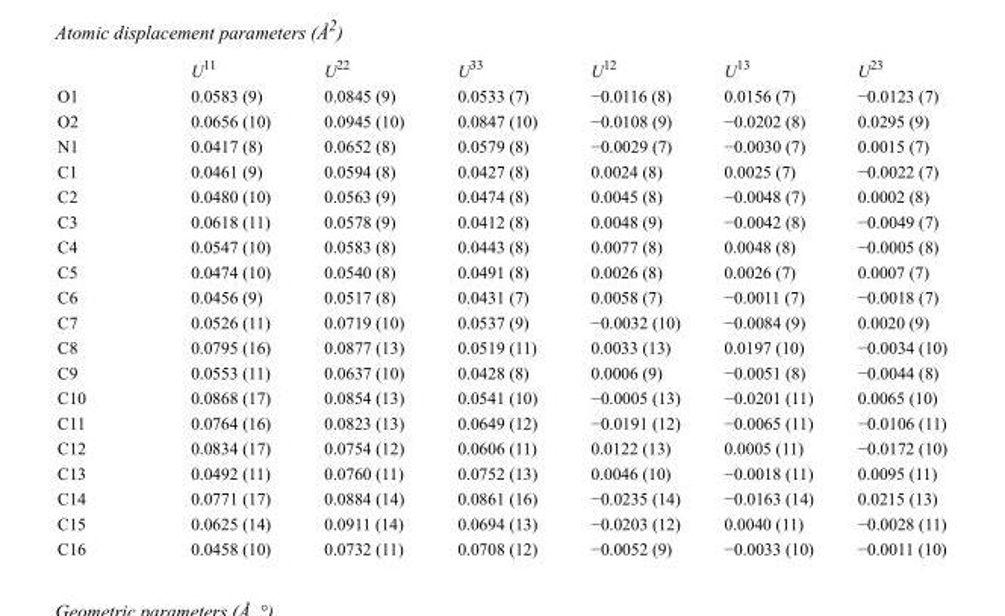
<table><thead><tr><td></td><td>U<sup>11</sup></td><td>U<sup>22</sup></td><td>U<sup>33</sup></td><td>U<sup>12</sup></td><td>U<sup>13</sup></td><td>U<sup>23</sup></td></tr></thead><tbody><tr><td>O1</td><td>0.0583 (9)</td><td>0.0845 (9)</td><td>0.0533 (7)</td><td>−0.0116 (8)</td><td>0.0156 (7)</td><td>−0.0123 (7)</td></tr><tr><td>O2</td><td>0.0656 (10)</td><td>0.0945 (10)</td><td>0.0847 (10)</td><td>−0.0108 (9)</td><td>−0.0202 (8)</td><td>0.0295 (9)</td></tr><tr><td>N1</td><td>0.0417 (8)</td><td>0.0652 (8)</td><td>0.0579 (8)</td><td>−0.0029 (7)</td><td>−0.0030 (7)</td><td>0.0015 (7)</td></tr><tr><td>C1</td><td>0.0461 (9)</td><td>0.0594 (8)</td><td>0.0427 (8)</td><td>0.0024 (8)</td><td>0.0025 (7)</td><td>−0.0022 (7)</td></tr><tr><td>C2</td><td>0.0480 (10)</td><td>0.0563 (9)</td><td>0.0474 (8)</td><td>0.0045 (8)</td><td>−0.0048 (7)</td><td>0.0002 (8)</td></tr><tr><td>C3</td><td>0.0618 (11)</td><td>0.0578 (9)</td><td>0.0412 (8)</td><td>0.0048 (9)</td><td>−0.0042 (8)</td><td>−0.0049 (7)</td></tr><tr><td>C4</td><td>0.0547 (10)</td><td>0.0583 (8)</td><td>0.0443 (8)</td><td>0.0077 (8)</td><td>0.0048 (8)</td><td>−0.0005 (8)</td></tr><tr><td>C5</td><td>0.0474 (10)</td><td>0.0540 (8)</td><td>0.0491 (8)</td><td>0.0026 (8)</td><td>0.0026 (7)</td><td>0.0007 (7)</td></tr><tr><td>C6</td><td>0.0456 (9)</td><td>0.0517 (8)</td><td>0.0431 (7)</td><td>0.0058 (7)</td><td>−0.0011 (7)</td><td>−0.0018 (7)</td></tr><tr><td>C7</td><td>0.0526 (11)</td><td>0.0719 (10)</td><td>0.0537 (9)</td><td>−0.0032 (10)</td><td>−0.0084 (9)</td><td>0.0020 (9)</td></tr><tr><td>C8</td><td>0.0795 (16)</td><td>0.0877 (13)</td><td>0.0519 (11)</td><td>0.0033 (13)</td><td>0.0197 (10)</td><td>−0.0034 (10)</td></tr><tr><td>C9</td><td>0.0553 (11)</td><td>0.0637 (10)</td><td>0.0428 (8)</td><td>0.0006 (9)</td><td>−0.0051 (8)</td><td>−0.0044 (8)</td></tr><tr><td>C10</td><td>0.0868 (17)</td><td>0.0854 (13)</td><td>0.0541 (10)</td><td>−0.0005 (13)</td><td>−0.0201 (11)</td><td>0.0065 (10)</td></tr><tr><td>C11</td><td>0.0764 (16)</td><td>0.0823 (13)</td><td>0.0649 (12)</td><td>−0.0191 (12)</td><td>−0.0065 (11)</td><td>−0.0106 (11)</td></tr><tr><td>C12</td><td>0.0834 (17)</td><td>0.0754 (12)</td><td>0.0606 (11)</td><td>0.0122 (13)</td><td>0.0005 (11)</td><td>−0.0172 (10)</td></tr><tr><td>C13</td><td>0.0492 (11)</td><td>0.0760 (11)</td><td>0.0752 (13)</td><td>0.0046 (10)</td><td>−0.0018 (11)</td><td>0.0095 (11)</td></tr><tr><td>C14</td><td>0.0771 (17)</td><td>0.0884 (14)</td><td>0.0861 (16)</td><td>−0.0235 (14)</td><td>−0.0163 (14)</td><td>0.0215 (13)</td></tr><tr><td>C15</td><td>0.0625 (14)</td><td>0.0911 (14)</td><td>0.0694 (13)</td><td>−0.0203 (12)</td><td>0.0040 (11)</td><td>−0.0028 (11)</td></tr><tr><td>C16</td><td>0.0458 (10)</td><td>0.0732 (11)</td><td>0.0708 (12)</td><td>−0.0052 (9)</td><td>−0.0033 (10)</td><td>−0.0011 (10)</td></tr></tbody></table>